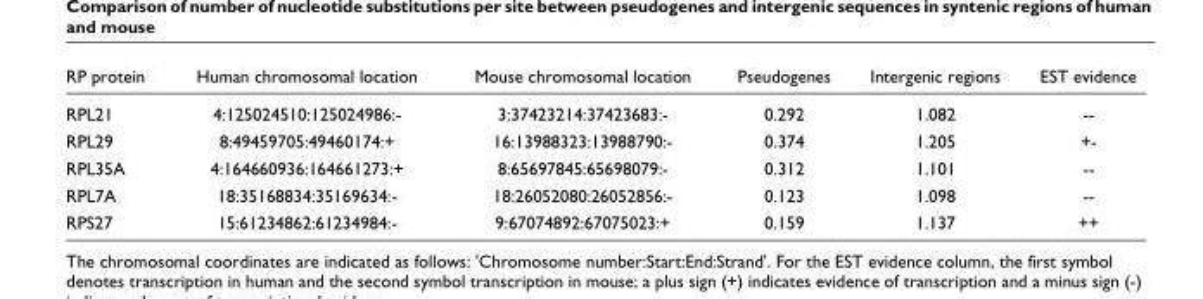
<table><thead><tr><td>RP protein</td><td>Human chromosomal location</td><td>Mouse chromosomal location</td><td>Pseudogenes</td><td>Intergenic regions</td><td>EST evidence</td></tr></thead><tbody><tr><td>RPL21</td><td>4:125024510:125024986:-</td><td>3:37423214:37423683:-</td><td>0.292</td><td>1.082</td><td>--</td></tr><tr><td>RPL29</td><td>8:49459705:49460174:+</td><td>16:13988323:13988790:-</td><td>0.374</td><td>1.205</td><td>+-</td></tr><tr><td>RPL35A</td><td>4:164660936:164661273:+</td><td>8:65697845:65698079:-</td><td>0.312</td><td>1.101</td><td>--</td></tr><tr><td>RPL7A</td><td>18:35168834:35169634:-</td><td>18:26052080:26052856:-</td><td>0.123</td><td>1.098</td><td>--</td></tr><tr><td>RPS27</td><td>15:61234862:61234984:-</td><td>9:67074892:67075023:+</td><td>0.159</td><td>1.137</td><td>++</td></tr></tbody></table>